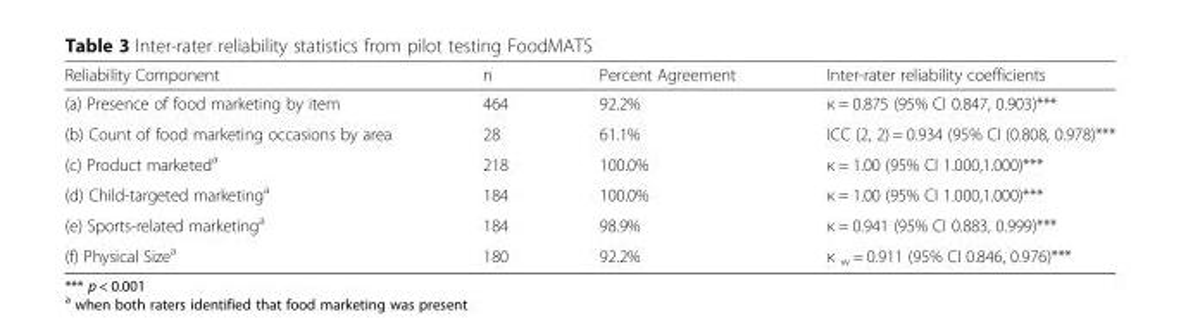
<table><thead><tr><td>Reliability Component</td><td>n</td><td>Percent Agreement</td><td>Inter-rater reliability coefficients</td></tr></thead><tbody><tr><td>(a) Presence of food marketing by item</td><td>464</td><td>92.2%</td><td>κ = 0.875 (95% CI 0.847, 0.903)***</td></tr><tr><td>(b) Count of food marketing occasions by area</td><td>28</td><td>61.1%</td><td>ICC (2, 2) = 0.934 (95% CI (0.808, 0.978)***</td></tr><tr><td>(c) Product marketed<sup>a</sup></td><td>218</td><td>100.0%</td><td>κ = 1.00 (95% CI 1.000,1.000)***</td></tr><tr><td>(d) Child-targeted marketing<sup>a</sup></td><td>184</td><td>100.0%</td><td>κ = 1.00 (95% CI 1.000,1.000)***</td></tr><tr><td>(e) Sports-related marketing<sup>a</sup></td><td>184</td><td>98.9%</td><td>κ = 0.941 (95% CI 0.883, 0.999)***</td></tr><tr><td>(f) Physical Size<sup>a</sup></td><td>180</td><td>92.2%</td><td>κ <sub>w</sub> = 0.911 (95% CI 0.846, 0.976)***</td></tr></tbody></table>